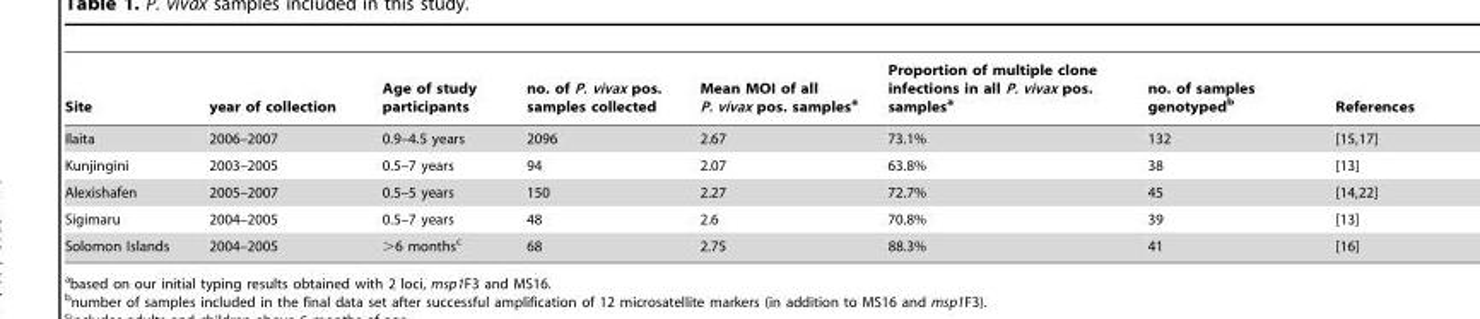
<table><thead><tr><td>Site</td><td>year of collection</td><td>Age of study participants</td><td>no. of P. vivax pos. samples collected</td><td>Mean MOI of all P. vivax pos. samples<sup>a</sup></td><td>Proportion of multiple clone infections in all P. vivax pos. samples<sup>a</sup></td><td>no. of samples genotyped<sup>b</sup></td><td>References</td></tr></thead><tbody><tr><td>Ilaita</td><td>2006–2007</td><td>0.9–4.5 years</td><td>2096</td><td>2.67</td><td>73.1%</td><td>132</td><td>[15,17]</td></tr><tr><td>Kunjingini</td><td>2003–2005</td><td>0.5–7 years</td><td>94</td><td>2.07</td><td>63.8%</td><td>38</td><td>[13]</td></tr><tr><td>Alexishafen</td><td>2005–2007</td><td>0.5–5 years</td><td>150</td><td>2.27</td><td>72.7%</td><td>45</td><td>[14,22]</td></tr><tr><td>Sigimaru</td><td>2004–2005</td><td>0.5–7 years</td><td>48</td><td>2.6</td><td>70.8%</td><td>39</td><td>[13]</td></tr><tr><td>Solomon Islands</td><td>2004–2005</td><td>&gt;6 months<sup>c</sup></td><td>68</td><td>2.75</td><td>88.3%</td><td>41</td><td>[16]</td></tr></tbody></table>